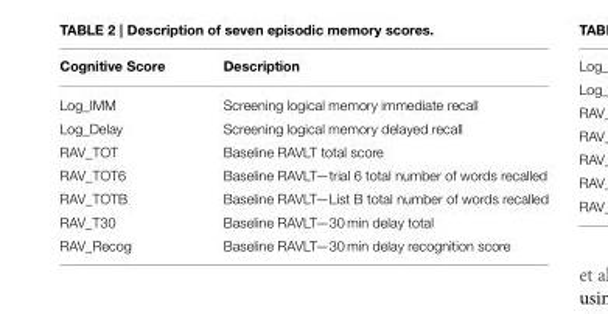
<table><thead><tr><td>Cognitive Score</td><td>Description</td></tr></thead><tbody><tr><td>Log_IMM</td><td>Screening logical memory immediate recall</td></tr><tr><td>Log_Delay</td><td>Screening logical memory delayed recall</td></tr><tr><td>RAV_TOT</td><td>Baseline RAVLT total score</td></tr><tr><td>RAV_TOT6</td><td>Baseline RAVLT—trial 6 total number of words recalled</td></tr><tr><td>RAV_TOTB</td><td>Baseline RAVLT—List B total number of words recalled</td></tr><tr><td>RAV_T30</td><td>Baseline RAVLT—30 min delay total</td></tr><tr><td>RAV_Recog</td><td>Baseline RAVLT—30 min delay recognition score</td></tr></tbody></table>